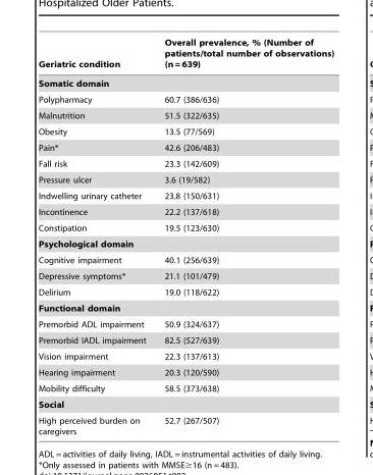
<table><thead><tr><td>Geriatric condition</td><td>Overall prevalence, % (Number of patients/total number of observations) (n = 639)</td></tr></thead><tbody><tr><td colspan="2">Somatic domain</td></tr><tr><td>Polypharmacy</td><td>60.7 (386/636)</td></tr><tr><td>Malnutrition</td><td>51.5 (322/635)</td></tr><tr><td>Obesity</td><td>13.5 (77/569)</td></tr><tr><td>Pain*</td><td>42.6 (206/483)</td></tr><tr><td>Fall risk</td><td>23.3 (142/609)</td></tr><tr><td>Pressure ulcer</td><td>3.6 (19/582)</td></tr><tr><td>Indwelling urinary catheter</td><td>23.8 (150/631)</td></tr><tr><td>Incontinence</td><td>22.2 (137/618)</td></tr><tr><td>Constipation</td><td>19.5 (123/630)</td></tr><tr><td colspan="2">Psychological domain</td></tr><tr><td>Cognitive impairment</td><td>40.1 (256/639)</td></tr><tr><td>Depressive symptoms*</td><td>21.1 (101/479)</td></tr><tr><td>Delirium</td><td>19.0 (118/622)</td></tr><tr><td colspan="2">Functional domain</td></tr><tr><td>Premorbid ADL impairment</td><td>50.9 (324/637)</td></tr><tr><td>Premorbid IADL impairment</td><td>82.5 (527/639)</td></tr><tr><td>Vision impairment</td><td>22.3 (137/613)</td></tr><tr><td>Hearing impairment</td><td>20.3 (120/590)</td></tr><tr><td>Mobility difficulty</td><td>58.5 (373/638)</td></tr><tr><td colspan="2">Social</td></tr><tr><td>High perceived burden on caregivers</td><td>52.7 (267/507)</td></tr></tbody></table>